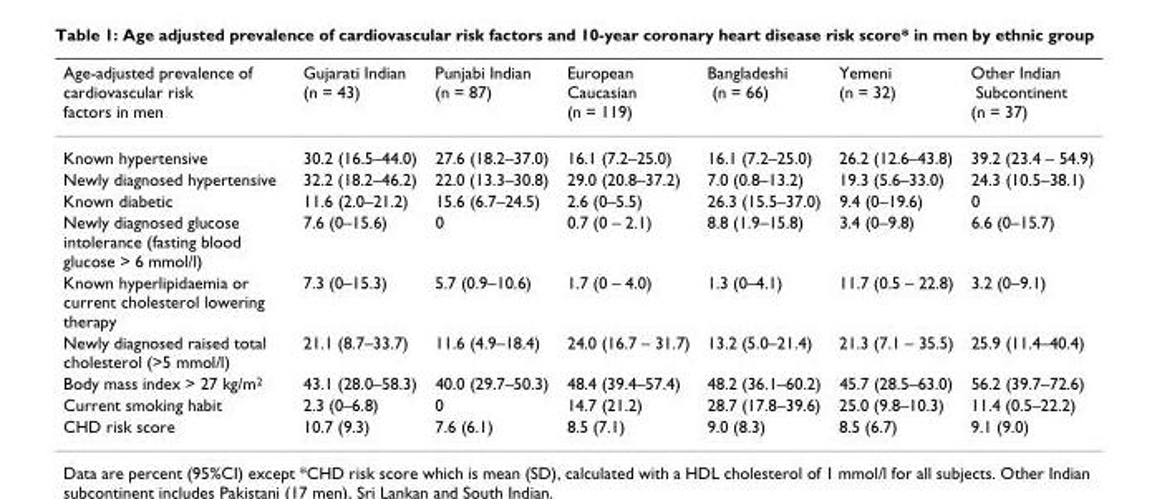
<table><thead><tr><td>Age-adjusted prevalence of cardiovascular risk factors in men</td><td>Gujarati Indian (n = 43)</td><td>Punjabi Indian (n = 87)</td><td>European Caucasian (n = 119)</td><td>Bangladeshi (n = 66)</td><td>Yemeni (n = 32)</td><td>Other Indian Subcontinent (n = 37)</td></tr></thead><tbody><tr><td>Known hypertensive</td><td>30.2 (16.5–44.0)</td><td>27.6 (18.2–37.0)</td><td>16.1 (7.2–25.0)</td><td>16.1 (7.2–25.0)</td><td>26.2 (12.6–43.8)</td><td>39.2 (23.4 – 54.9)</td></tr><tr><td>Newly diagnosed hypertensive</td><td>32.2 (18.2–46.2)</td><td>22.0 (13.3–30.8)</td><td>29.0 (20.8–37.2)</td><td>7.0 (0.8–13.2)</td><td>19.3 (5.6–33.0)</td><td>24.3 (10.5–38.1)</td></tr><tr><td>Known diabetic</td><td>11.6 (2.0–21.2)</td><td>15.6 (6.7–24.5)</td><td>2.6 (0–5.5)</td><td>26.3 (15.5–37.0)</td><td>9.4 (0–19.6)</td><td>0</td></tr><tr><td>Newly diagnosed glucose intolerance (fasting blood glucose &gt; 6 mmol/l)</td><td>7.6 (0–15.6)</td><td>0</td><td>0.7 (0 – 2.1)</td><td>8.8 (1.9–15.8)</td><td>3.4 (0–9.8)</td><td>6.6 (0–15.7)</td></tr><tr><td>Known hyperlipidaemia or current cholesterol lowering therapy</td><td>7.3 (0–15.3)</td><td>5.7 (0.9–10.6)</td><td>1.7 (0 – 4.0)</td><td>1.3 (0–4.1)</td><td>11.7 (0.5 – 22.8)</td><td>3.2 (0–9.1)</td></tr><tr><td>Newly diagnosed raised total cholesterol (&gt;5 mmol/l)</td><td>21.1 (8.7–33.7)</td><td>11.6 (4.9–18.4)</td><td>24.0 (16.7 – 31.7)</td><td>13.2 (5.0–21.4)</td><td>21.3 (7.1 – 35.5)</td><td>25.9 (11.4–40.4)</td></tr><tr><td>Body mass index &gt; 27 kg/m<sup>2</sup></td><td>43.1 (28.0–58.3)</td><td>40.0 (29.7–50.3)</td><td>48.4 (39.4–57.4)</td><td>48.2 (36.1–60.2)</td><td>45.7 (28.5–63.0)</td><td>56.2 (39.7–72.6)</td></tr><tr><td>Current smoking habit</td><td>2.3 (0–6.8)</td><td>0</td><td>14.7 (21.2)</td><td>28.7 (17.8–39.6)</td><td>25.0 (9.8–10.3)</td><td>11.4 (0.5–22.2)</td></tr><tr><td>CHD risk score</td><td>10.7 (9.3)</td><td>7.6 (6.1)</td><td>8.5 (7.1)</td><td>9.0 (8.3)</td><td>8.5 (6.7)</td><td>9.1 (9.0)</td></tr></tbody></table>